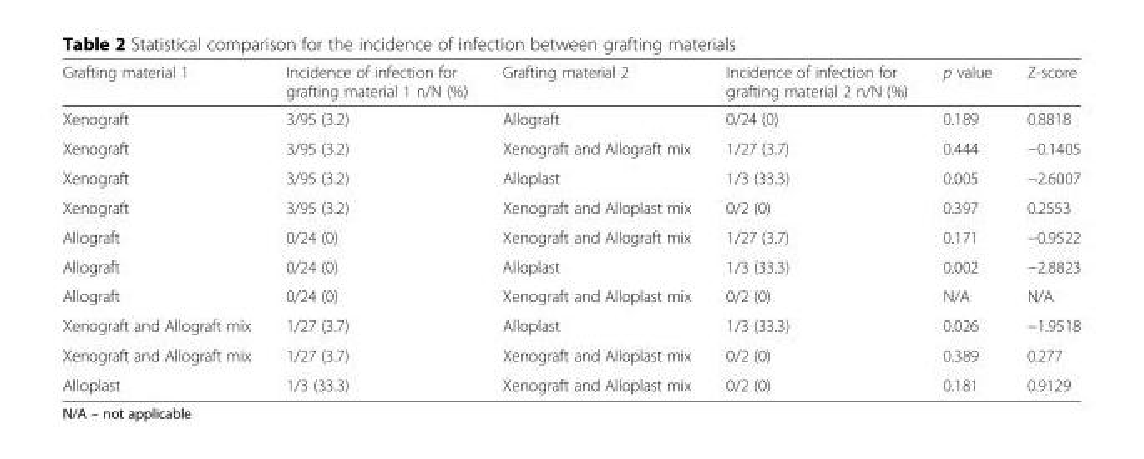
<table><thead><tr><td>Grafting material 1</td><td>Incidence of infection for grafting material 1 n/N (%)</td><td>Grafting material 2</td><td>Incidence of infection for grafting material 2 n/N (%)</td><td>p value</td><td>Z-score</td></tr></thead><tbody><tr><td>Xenograft</td><td>3/95 (3.2)</td><td>Allograft</td><td>0/24 (0)</td><td>0.189</td><td>0.8818</td></tr><tr><td>Xenograft</td><td>3/95 (3.2)</td><td>Xenograft and Allograft mix</td><td>1/27 (3.7)</td><td>0.444</td><td>−0.1405</td></tr><tr><td>Xenograft</td><td>3/95 (3.2)</td><td>Alloplast</td><td>1/3 (33.3)</td><td>0.005</td><td>−2.6007</td></tr><tr><td>Xenograft</td><td>3/95 (3.2)</td><td>Xenograft and Alloplast mix</td><td>0/2 (0)</td><td>0.397</td><td>0.2553</td></tr><tr><td>Allograft</td><td>0/24 (0)</td><td>Xenograft and Allograft mix</td><td>1/27 (3.7)</td><td>0.171</td><td>−0.9522</td></tr><tr><td>Allograft</td><td>0/24 (0)</td><td>Alloplast</td><td>1/3 (33.3)</td><td>0.002</td><td>−2.8823</td></tr><tr><td>Allograft</td><td>0/24 (0)</td><td>Xenograft and Alloplast mix</td><td>0/2 (0)</td><td>N/A</td><td>N/A</td></tr><tr><td>Xenograft and Allograft mix</td><td>1/27 (3.7)</td><td>Alloplast</td><td>1/3 (33.3)</td><td>0.026</td><td>−1.9518</td></tr><tr><td>Xenograft and Allograft mix</td><td>1/27 (3.7)</td><td>Xenograft and Alloplast mix</td><td>0/2 (0)</td><td>0.389</td><td>0.277</td></tr><tr><td>Alloplast</td><td>1/3 (33.3)</td><td>Xenograft and Alloplast mix</td><td>0/2 (0)</td><td>0.181</td><td>0.9129</td></tr></tbody></table>